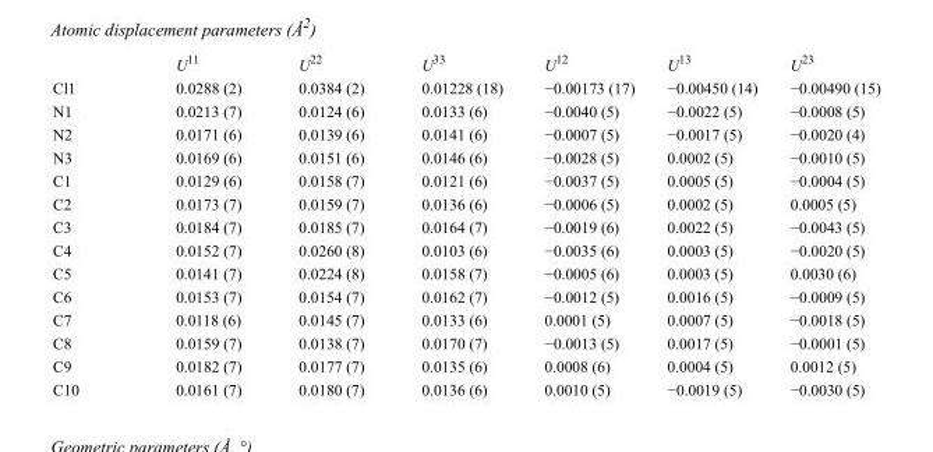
<table><thead><tr><td></td><td>U<sup>11</sup></td><td>U<sup>22</sup></td><td>U<sup>33</sup></td><td>U<sup>12</sup></td><td>U<sup>13</sup></td><td>U<sup>23</sup></td></tr></thead><tbody><tr><td>Cl1</td><td>0.0288 (2)</td><td>0.0384 (2)</td><td>0.01228 (18)</td><td>−0.00173 (17)</td><td>−0.00450 (14)</td><td>−0.00490 (15)</td></tr><tr><td>N1</td><td>0.0213 (7)</td><td>0.0124 (6)</td><td>0.0133 (6)</td><td>−0.0040 (5)</td><td>−0.0022 (5)</td><td>−0.0008 (5)</td></tr><tr><td>N2</td><td>0.0171 (6)</td><td>0.0139 (6)</td><td>0.0141 (6)</td><td>−0.0007 (5)</td><td>−0.0017 (5)</td><td>−0.0020 (4)</td></tr><tr><td>N3</td><td>0.0169 (6)</td><td>0.0151 (6)</td><td>0.0146 (6)</td><td>−0.0028 (5)</td><td>0.0002 (5)</td><td>−0.0010 (5)</td></tr><tr><td>C1</td><td>0.0129 (6)</td><td>0.0158 (7)</td><td>0.0121 (6)</td><td>−0.0037 (5)</td><td>0.0005 (5)</td><td>−0.0004 (5)</td></tr><tr><td>C2</td><td>0.0173 (7)</td><td>0.0159 (7)</td><td>0.0136 (6)</td><td>−0.0006 (5)</td><td>0.0002 (5)</td><td>0.0005 (5)</td></tr><tr><td>C3</td><td>0.0184 (7)</td><td>0.0185 (7)</td><td>0.0164 (7)</td><td>−0.0019 (6)</td><td>0.0022 (5)</td><td>−0.0043 (5)</td></tr><tr><td>C4</td><td>0.0152 (7)</td><td>0.0260 (8)</td><td>0.0103 (6)</td><td>−0.0035 (6)</td><td>0.0003 (5)</td><td>−0.0020 (5)</td></tr><tr><td>C5</td><td>0.0141 (7)</td><td>0.0224 (8)</td><td>0.0158 (7)</td><td>−0.0005 (6)</td><td>0.0003 (5)</td><td>0.0030 (6)</td></tr><tr><td>C6</td><td>0.0153 (7)</td><td>0.0154 (7)</td><td>0.0162 (7)</td><td>−0.0012 (5)</td><td>0.0016 (5)</td><td>−0.0009 (5)</td></tr><tr><td>C7</td><td>0.0118 (6)</td><td>0.0145 (7)</td><td>0.0133 (6)</td><td>0.0001 (5)</td><td>0.0007 (5)</td><td>−0.0018 (5)</td></tr><tr><td>C8</td><td>0.0159 (7)</td><td>0.0138 (7)</td><td>0.0170 (7)</td><td>−0.0013 (5)</td><td>0.0017 (5)</td><td>−0.0001 (5)</td></tr><tr><td>C9</td><td>0.0182 (7)</td><td>0.0177 (7)</td><td>0.0135 (6)</td><td>0.0008 (6)</td><td>0.0004 (5)</td><td>0.0012 (5)</td></tr><tr><td>C10</td><td>0.0161 (7)</td><td>0.0180 (7)</td><td>0.0136 (6)</td><td>0.0010 (5)</td><td>−0.0019 (5)</td><td>−0.0030 (5)</td></tr></tbody></table>